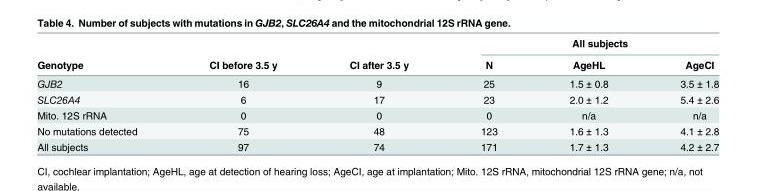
<table><thead><tr><td rowspan="2">Genotype</td><td rowspan="2">CI before 3.5 y</td><td rowspan="2">CI after 3.5 y</td><td colspan="3">All subjects</td></tr><tr><td>N</td><td>AgeHL</td><td>AgeCI</td></tr></thead><tbody><tr><td>GJB2</td><td>16</td><td>9</td><td>25</td><td>1.5 ± 0.8</td><td>3.5 ± 1.8</td></tr><tr><td>SLC26A4</td><td>6</td><td>17</td><td>23</td><td>2.0 ± 1.2</td><td>5.4 ± 2.6</td></tr><tr><td>Mito. 12S rRNA</td><td>0</td><td>0</td><td>0</td><td>n/a</td><td>n/a</td></tr><tr><td>No mutations detected</td><td>75</td><td>48</td><td>123</td><td>1.6 ± 1.3</td><td>4.1 ± 2.8</td></tr><tr><td>All subjects</td><td>97</td><td>74</td><td>171</td><td>1.7 ± 1.3</td><td>4.2 ± 2.7</td></tr></tbody></table>